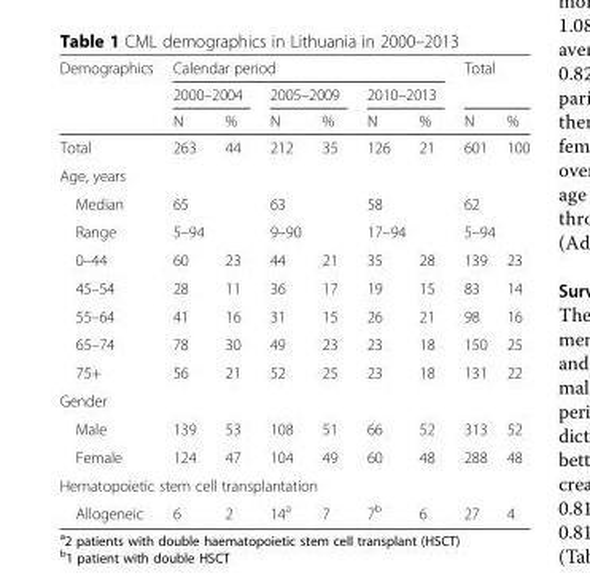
<table><thead><tr><td rowspan="3">Demographics</td><td colspan="6">Calendar period</td><td rowspan="2" colspan="2">Total</td></tr><tr><td colspan="2">2000–2004</td><td colspan="2">2005–2009</td><td colspan="2">2010–2013</td></tr><tr><td>N</td><td>%</td><td>N</td><td>%</td><td>N</td><td>%</td><td>N</td><td>%</td></tr></thead><tbody><tr><td>Total</td><td>263</td><td>44</td><td>212</td><td>35</td><td>126</td><td>21</td><td>601</td><td>100</td></tr><tr><td colspan="9">Age, years</td></tr><tr><td>Median</td><td colspan="2">65</td><td colspan="2">63</td><td colspan="2">58</td><td colspan="2">62</td></tr><tr><td>Range</td><td colspan="2">5–94</td><td colspan="2">9–90</td><td colspan="2">17–94</td><td colspan="2">5–94</td></tr><tr><td>0–44</td><td>60</td><td>23</td><td>44</td><td>21</td><td>35</td><td>28</td><td>139</td><td>23</td></tr><tr><td>45–54</td><td>28</td><td>11</td><td>36</td><td>17</td><td>19</td><td>15</td><td>83</td><td>14</td></tr><tr><td>55–64</td><td>41</td><td>16</td><td>31</td><td>15</td><td>26</td><td>21</td><td>98</td><td>16</td></tr><tr><td>65–74</td><td>78</td><td>30</td><td>49</td><td>23</td><td>23</td><td>18</td><td>150</td><td>25</td></tr><tr><td>75+</td><td>56</td><td>21</td><td>52</td><td>25</td><td>23</td><td>18</td><td>131</td><td>22</td></tr><tr><td colspan="9">Gender</td></tr><tr><td>Male</td><td>139</td><td>53</td><td>108</td><td>51</td><td>66</td><td>52</td><td>313</td><td>52</td></tr><tr><td>Female</td><td>124</td><td>47</td><td>104</td><td>49</td><td>60</td><td>48</td><td>288</td><td>48</td></tr><tr><td colspan="9">Hematopoietic stem cell transplantation</td></tr><tr><td>Allogeneic</td><td>6</td><td>2</td><td>14<sup>a</sup></td><td>7</td><td>7<sup>b</sup></td><td>6</td><td>27</td><td>4</td></tr></tbody></table>